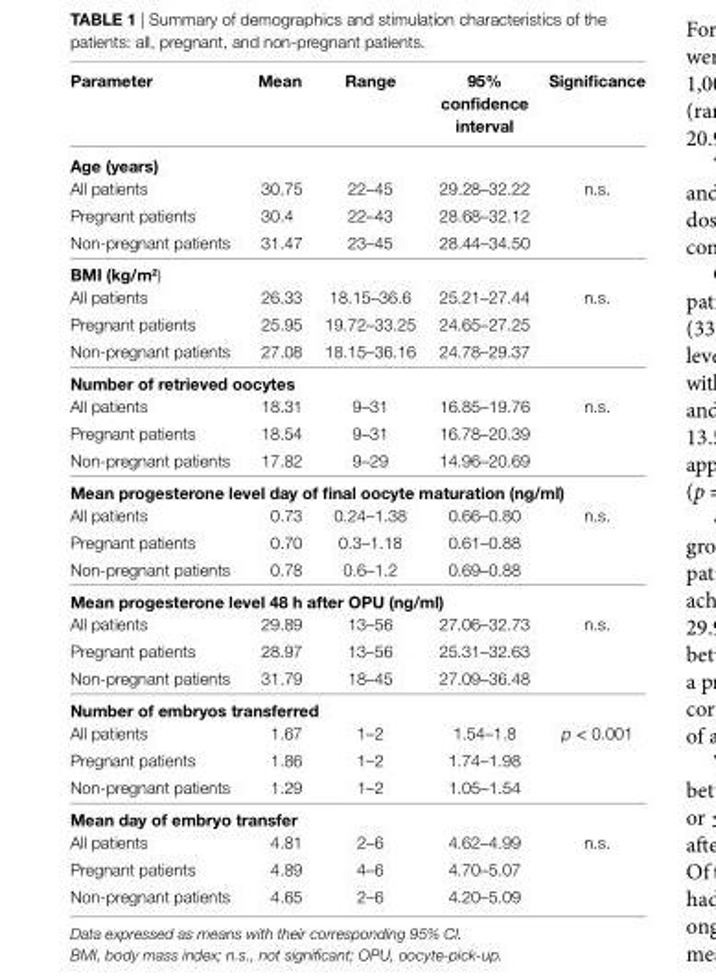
<table><thead><tr><td>Parameter</td><td>Mean</td><td>range</td><td>95% confidence interval</td><td>significance</td></tr></thead><tbody><tr><td colspan="5">age (years)</td></tr><tr><td>All patients</td><td>30.75</td><td>22–45</td><td>29.28–32.22</td><td rowspan="3">n.s.</td></tr><tr><td>Pregnant patients</td><td>30.4</td><td>22–43</td><td>28.68–32.12</td></tr><tr><td>Non-pregnant patients</td><td>31.47</td><td>23–45</td><td>28.44–34.50</td></tr><tr><td colspan="5">bMi (kg/m2)</td></tr><tr><td>All patients</td><td>26.33</td><td>18.15–36.6</td><td>25.21–27.44</td><td rowspan="3">n.s.</td></tr><tr><td>Pregnant patients</td><td>25.95</td><td>19.72–33.25</td><td>24.65–27.25</td></tr><tr><td>Non-pregnant patients</td><td>27.08</td><td>18.15–36.16</td><td>24.78–29.37</td></tr><tr><td colspan="5">number of retrieved oocytes</td></tr><tr><td>All patients</td><td>18.31</td><td>9–31</td><td>16.85–19.76</td><td rowspan="3">n.s.</td></tr><tr><td>Pregnant patients</td><td>18.54</td><td>9–31</td><td>16.78–20.39</td></tr><tr><td>Non-pregnant patients</td><td>17.82</td><td>9–29</td><td>14.96–20.69</td></tr><tr><td colspan="5">Mean progesterone level day of final oocyte maturation (ng/ml)</td></tr><tr><td>All patients</td><td>0.73</td><td>0.24–1.38</td><td>0.66–0.80</td><td rowspan="3">n.s.</td></tr><tr><td>Pregnant patients</td><td>0.70</td><td>0.3–1.18</td><td>0.61–0.88</td></tr><tr><td>Non-pregnant patients</td><td>0.78</td><td>0.6–1.2</td><td>0.69–0.88</td></tr><tr><td colspan="5">Mean progesterone level 48 h after OPU (ng/ml)</td></tr><tr><td>All patients</td><td>29.89</td><td>13–56</td><td>27.06–32.73</td><td rowspan="3">n.s.</td></tr><tr><td>Pregnant patients</td><td>28.97</td><td>13–56</td><td>25.31–32.63</td></tr><tr><td>Non-pregnant patients</td><td>31.79</td><td>18–45</td><td>27.09–36.48</td></tr><tr><td colspan="5">number of embryos transferred</td></tr><tr><td>All patients</td><td>1.67</td><td>1–2</td><td>1.54–1.8</td><td rowspan="3">p &lt; 0.001</td></tr><tr><td>Pregnant patients</td><td>1.86</td><td>1–2</td><td>1.74–1.98</td></tr><tr><td>Non-pregnant patients</td><td>1.29</td><td>1–2</td><td>1.05–1.54</td></tr><tr><td colspan="5">Mean day of embryo transfer</td></tr><tr><td>All patients</td><td>4.81</td><td>2–6</td><td>4.62–4.99</td><td rowspan="3">n.s.</td></tr><tr><td>Pregnant patients</td><td>4.89</td><td>4–6</td><td>4.70–5.07</td></tr><tr><td>Non-pregnant patients</td><td>4.65</td><td>2–6</td><td>4.20–5.09</td></tr></tbody></table>